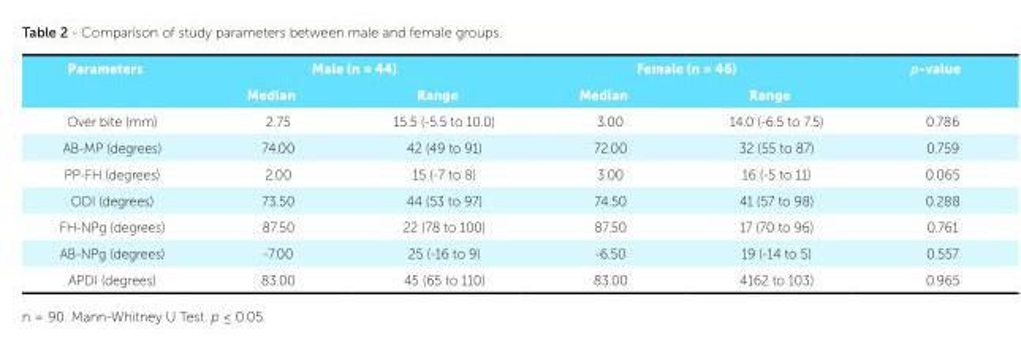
<table><tbody><tr><td rowspan="2">Parameters</td><td colspan="2">Male (n = 44)</td><td colspan="2">Female (n = 46)</td><td rowspan="2">p-value</td></tr><tr><td>Median</td><td>Range</td><td>Median</td><td>Range</td></tr><tr><td>Over bite (mm)</td><td>2.75</td><td>15.5 (-5.5 to 10.0)</td><td>3.00</td><td>14.0 (-6.5 to 7.5)</td><td>0.786</td></tr><tr><td>AB-MP (degrees)</td><td>74.00</td><td>42 (49 to 91)</td><td>72.00</td><td>32 (55 to 87)</td><td>0.759</td></tr><tr><td>PP-FH (degrees)</td><td>2.00</td><td>15 (-7 to 8)</td><td>3.00</td><td>16 (-5 to 11)</td><td>0.065</td></tr><tr><td>ODI (degrees)</td><td>73.50</td><td>44 (53 to 97)</td><td>74.50</td><td>41 (57 to 98)</td><td>0.288</td></tr><tr><td>FH-NPg (degrees)</td><td>87.50</td><td>22 (78 to 100)</td><td>87.50</td><td>17 (70 to 96)</td><td>0.761</td></tr><tr><td>AB-NPg (degrees)</td><td>-7.00</td><td>25 (-16 to 9)</td><td>-6.50</td><td>19 (-14 to 5)</td><td>0.557</td></tr><tr><td>APDI (degrees)</td><td>83.00</td><td>45 (65 to 110)</td><td>83.00</td><td>4162 to 103)</td><td>0.965</td></tr></tbody></table>